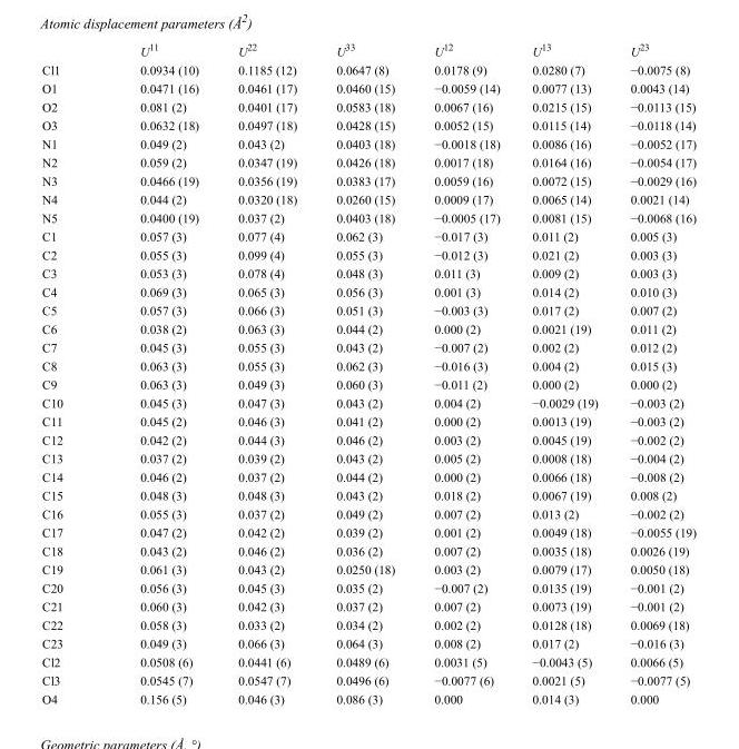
<table><thead><tr><td></td><td>U<sup>11</sup></td><td>U<sup>22</sup></td><td>U<sup>33</sup></td><td>U<sup>12</sup></td><td>U<sup>13</sup></td><td>U<sup>23</sup></td></tr></thead><tbody><tr><td>Cl1</td><td>0.0934 (10)</td><td>0.1185 (12)</td><td>0.0647 (8)</td><td>0.0178 (9)</td><td>0.0280 (7)</td><td>−0.0075 (8)</td></tr><tr><td>O1</td><td>0.0471 (16)</td><td>0.0461 (17)</td><td>0.0460 (15)</td><td>−0.0059 (14)</td><td>0.0077 (13)</td><td>0.0043 (14)</td></tr><tr><td>O2</td><td>0.081 (2)</td><td>0.0401 (17)</td><td>0.0583 (18)</td><td>0.0067 (16)</td><td>0.0215 (15)</td><td>−0.0113 (15)</td></tr><tr><td>O3</td><td>0.0632 (18)</td><td>0.0497 (18)</td><td>0.0428 (15)</td><td>0.0052 (15)</td><td>0.0115 (14)</td><td>−0.0118 (14)</td></tr><tr><td>N1</td><td>0.049 (2)</td><td>0.043 (2)</td><td>0.0403 (18)</td><td>−0.0018 (18)</td><td>0.0086 (16)</td><td>−0.0052 (17)</td></tr><tr><td>N2</td><td>0.059 (2)</td><td>0.0347 (19)</td><td>0.0426 (18)</td><td>0.0017 (18)</td><td>0.0164 (16)</td><td>−0.0054 (17)</td></tr><tr><td>N3</td><td>0.0466 (19)</td><td>0.0356 (19)</td><td>0.0383 (17)</td><td>0.0059 (16)</td><td>0.0072 (15)</td><td>−0.0029 (16)</td></tr><tr><td>N4</td><td>0.044 (2)</td><td>0.0320 (18)</td><td>0.0260 (15)</td><td>0.0009 (17)</td><td>0.0065 (14)</td><td>0.0021 (14)</td></tr><tr><td>N5</td><td>0.0400 (19)</td><td>0.037 (2)</td><td>0.0403 (18)</td><td>−0.0005 (17)</td><td>0.0081 (15)</td><td>−0.0068 (16)</td></tr><tr><td>C1</td><td>0.057 (3)</td><td>0.077 (4)</td><td>0.062 (3)</td><td>−0.017 (3)</td><td>0.011 (2)</td><td>0.005 (3)</td></tr><tr><td>C2</td><td>0.055 (3)</td><td>0.099 (4)</td><td>0.055 (3)</td><td>−0.012 (3)</td><td>0.021 (2)</td><td>0.003 (3)</td></tr><tr><td>C3</td><td>0.053 (3)</td><td>0.078 (4)</td><td>0.048 (3)</td><td>0.011 (3)</td><td>0.009 (2)</td><td>0.003 (3)</td></tr><tr><td>C4</td><td>0.069 (3)</td><td>0.065 (3)</td><td>0.056 (3)</td><td>0.001 (3)</td><td>0.014 (2)</td><td>0.010 (3)</td></tr><tr><td>C5</td><td>0.057 (3)</td><td>0.066 (3)</td><td>0.051 (3)</td><td>−0.003 (3)</td><td>0.017 (2)</td><td>0.007 (2)</td></tr><tr><td>C6</td><td>0.038 (2)</td><td>0.063 (3)</td><td>0.044 (2)</td><td>0.000 (2)</td><td>0.0021 (19)</td><td>0.011 (2)</td></tr><tr><td>C7</td><td>0.045 (3)</td><td>0.055 (3)</td><td>0.043 (2)</td><td>−0.007 (2)</td><td>0.002 (2)</td><td>0.012 (2)</td></tr><tr><td>C8</td><td>0.063 (3)</td><td>0.055 (3)</td><td>0.062 (3)</td><td>−0.016 (3)</td><td>0.004 (2)</td><td>0.015 (3)</td></tr><tr><td>C9</td><td>0.063 (3)</td><td>0.049 (3)</td><td>0.060 (3)</td><td>−0.011 (2)</td><td>0.000 (2)</td><td>0.000 (2)</td></tr><tr><td>C10</td><td>0.045 (3)</td><td>0.047 (3)</td><td>0.043 (2)</td><td>0.004 (2)</td><td>−0.0029 (19)</td><td>−0.003 (2)</td></tr><tr><td>C11</td><td>0.045 (2)</td><td>0.046 (3)</td><td>0.041 (2)</td><td>0.000 (2)</td><td>0.0013 (19)</td><td>−0.003 (2)</td></tr><tr><td>C12</td><td>0.042 (2)</td><td>0.044 (3)</td><td>0.046 (2)</td><td>0.003 (2)</td><td>0.0045 (19)</td><td>−0.002 (2)</td></tr><tr><td>C13</td><td>0.037 (2)</td><td>0.039 (2)</td><td>0.043 (2)</td><td>0.005 (2)</td><td>0.0008 (18)</td><td>−0.004 (2)</td></tr><tr><td>C14</td><td>0.046 (2)</td><td>0.037 (2)</td><td>0.044 (2)</td><td>0.000 (2)</td><td>0.0066 (18)</td><td>−0.008 (2)</td></tr><tr><td>C15</td><td>0.048 (3)</td><td>0.048 (3)</td><td>0.043 (2)</td><td>0.018 (2)</td><td>0.0067 (19)</td><td>0.008 (2)</td></tr><tr><td>C16</td><td>0.055 (3)</td><td>0.037 (2)</td><td>0.049 (2)</td><td>0.007 (2)</td><td>0.013 (2)</td><td>−0.002 (2)</td></tr><tr><td>C17</td><td>0.047 (2)</td><td>0.042 (2)</td><td>0.039 (2)</td><td>0.001 (2)</td><td>0.0049 (18)</td><td>−0.0055 (19)</td></tr><tr><td>C18</td><td>0.043 (2)</td><td>0.046 (2)</td><td>0.036 (2)</td><td>0.007 (2)</td><td>0.0035 (18)</td><td>0.0026 (19)</td></tr><tr><td>C19</td><td>0.061 (3)</td><td>0.043 (2)</td><td>0.0250 (18)</td><td>0.003 (2)</td><td>0.0079 (17)</td><td>0.0050 (18)</td></tr><tr><td>C20</td><td>0.056 (3)</td><td>0.045 (3)</td><td>0.035 (2)</td><td>−0.007 (2)</td><td>0.0135 (19)</td><td>−0.001 (2)</td></tr><tr><td>C21</td><td>0.060 (3)</td><td>0.042 (3)</td><td>0.037 (2)</td><td>0.007 (2)</td><td>0.0073 (19)</td><td>−0.001 (2)</td></tr><tr><td>C22</td><td>0.058 (3)</td><td>0.033 (2)</td><td>0.034 (2)</td><td>0.002 (2)</td><td>0.0128 (18)</td><td>0.0069 (18)</td></tr><tr><td>C23</td><td>0.049 (3)</td><td>0.066 (3)</td><td>0.064 (3)</td><td>0.008 (2)</td><td>0.017 (2)</td><td>−0.016 (3)</td></tr><tr><td>Cl2</td><td>0.0508 (6)</td><td>0.0441 (6)</td><td>0.0489 (6)</td><td>0.0031 (5)</td><td>−0.0043 (5)</td><td>0.0066 (5)</td></tr><tr><td>Cl3</td><td>0.0545 (7)</td><td>0.0547 (7)</td><td>0.0496 (6)</td><td>−0.0077 (6)</td><td>0.0021 (5)</td><td>−0.0077 (5)</td></tr><tr><td>O4</td><td>0.156 (5)</td><td>0.046 (3)</td><td>0.086 (3)</td><td>0.000</td><td>0.014 (3)</td><td>0.000</td></tr></tbody></table>